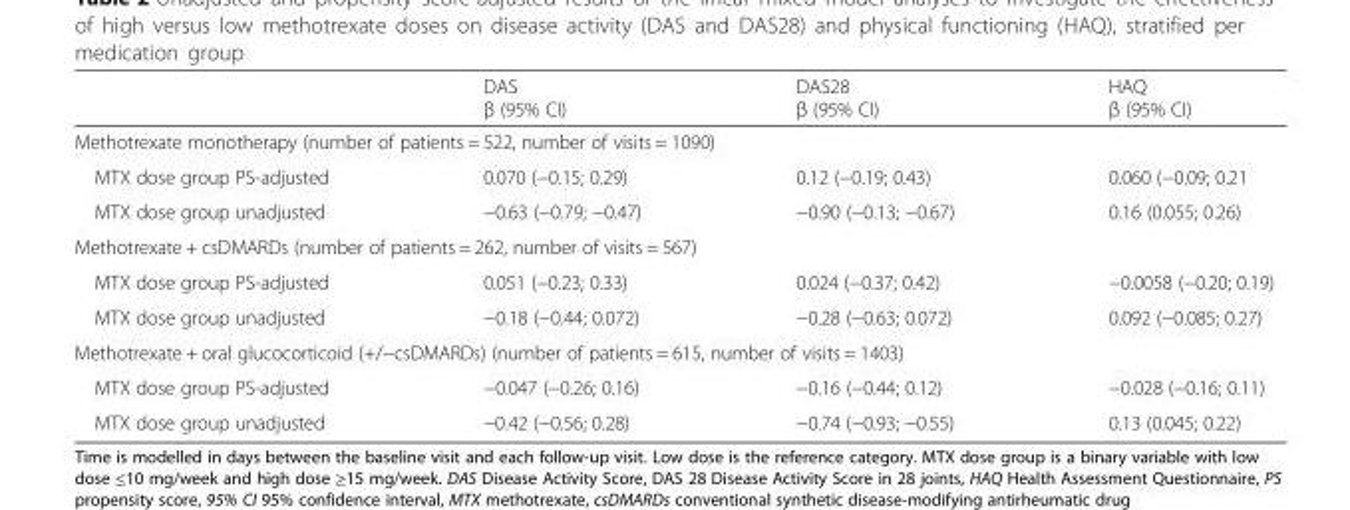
<table><thead><tr><td></td><td>DAS β (95% CI)</td><td>DAS28 β (95% CI)</td><td>HAQ β (95% CI)</td></tr></thead><tbody><tr><td colspan="4">Methotrexate monotherapy (number of patients = 522, number of visits = 1090)</td></tr><tr><td>MTX dose group PS-adjusted</td><td>0.070 (−0.15; 0.29)</td><td>0.12 (−0.19; 0.43)</td><td>0.060 (−0.09; 0.21</td></tr><tr><td>MTX dose group unadjusted</td><td>−0.63 (−0.79; −0.47)</td><td>−0.90 (−0.13; −0.67)</td><td>0.16 (0.055; 0.26)</td></tr><tr><td colspan="4">Methotrexate + csDMARDs (number of patients = 262, number of visits = 567)</td></tr><tr><td>MTX dose group PS-adjusted</td><td>0.051 (−0.23; 0.33)</td><td>0.024 (−0.37; 0.42)</td><td>−0.0058 (−0.20; 0.19)</td></tr><tr><td>MTX dose group unadjusted</td><td>−0.18 (−0.44; 0.072)</td><td>−0.28 (−0.63; 0.072)</td><td>0.092 (−0.085; 0.27)</td></tr><tr><td colspan="4">Methotrexate + oral glucocorticoid (+/−csDMARDs) (number of patients = 615, number of visits = 1403)</td></tr><tr><td>MTX dose group PS-adjusted</td><td>−0.047 (−0.26; 0.16)</td><td>−0.16 (−0.44; 0.12)</td><td>−0.028 (−0.16; 0.11)</td></tr><tr><td>MTX dose group unadjusted</td><td>−0.42 (−0.56; 0.28)</td><td>−0.74 (−0.93; −0.55)</td><td>0.13 (0.045; 0.22)</td></tr></tbody></table>